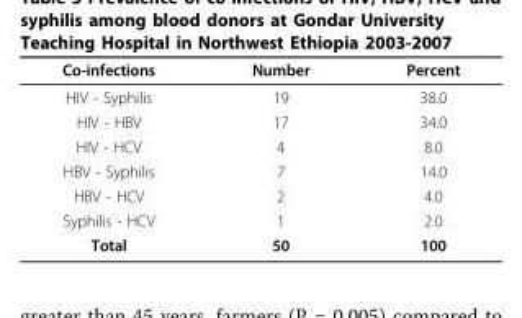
<table><thead><tr><td>Co-infections</td><td>Number</td><td>Percent</td></tr></thead><tbody><tr><td>HIV - Syphilis</td><td>19</td><td>38.0</td></tr><tr><td>HIV - HBV</td><td>17</td><td>34.0</td></tr><tr><td>HIV - HCV</td><td>4</td><td>8.0</td></tr><tr><td>HBV - Syphilis</td><td>7</td><td>14.0</td></tr><tr><td>HBV - HCV</td><td>2</td><td>4.0</td></tr><tr><td>Syphilis - HCV</td><td>1</td><td>2.0</td></tr><tr><td>Total</td><td>50</td><td>100</td></tr></tbody></table>